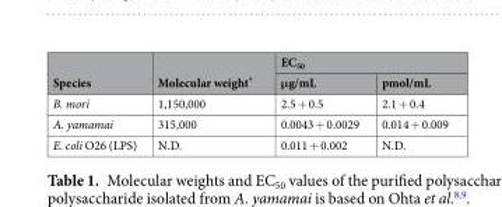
<table><thead><tr><td rowspan="2">Species</td><td rowspan="2">Molecular weight*</td><td colspan="2">EC<sub>50</sub></td></tr><tr><td>μg/mL</td><td>pmol/mL</td></tr></thead><tbody><tr><td>B. mori</td><td>1,150,000</td><td>2.5 + 0.5</td><td>2.1 + 0.4</td></tr><tr><td>A. yamamai</td><td>315,000</td><td>0.0043 + 0.0029</td><td>0.014 + 0.009</td></tr><tr><td>E. coli O26 (LPS)</td><td>N.D.</td><td>0.011 + 0.002</td><td>N.D.</td></tr></tbody></table>